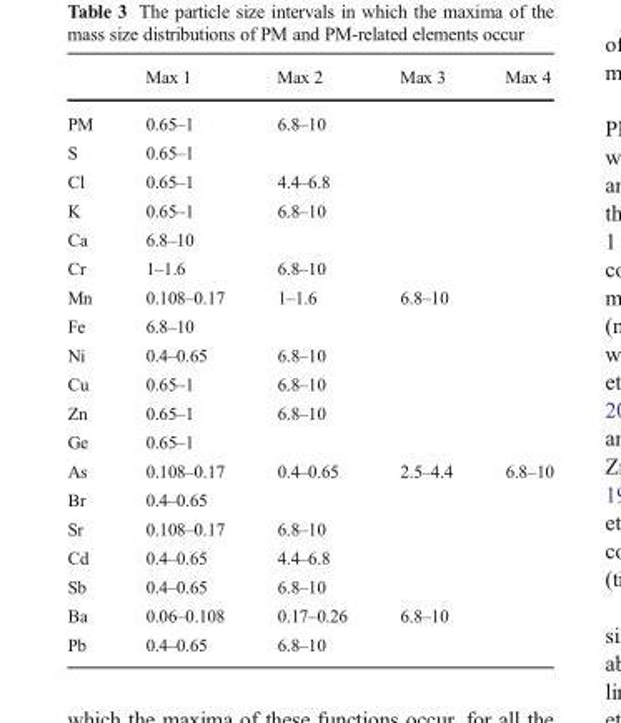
<table><thead><tr><td></td><td>Max 1</td><td>Max 2</td><td>Max 3</td><td>Max 4</td></tr></thead><tbody><tr><td>PM</td><td>0.65–1</td><td>6.8–10</td><td></td><td></td></tr><tr><td>S</td><td>0.65–1</td><td></td><td></td><td></td></tr><tr><td>Cl</td><td>0.65–1</td><td>4.4–6.8</td><td></td><td></td></tr><tr><td>K</td><td>0.65–1</td><td>6.8–10</td><td></td><td></td></tr><tr><td>Ca</td><td>6.8–10</td><td></td><td></td><td></td></tr><tr><td>Cr</td><td>1–1.6</td><td>6.8–10</td><td></td><td></td></tr><tr><td>Mn</td><td>0.108–0.17</td><td>1–1.6</td><td>6.8–10</td><td></td></tr><tr><td>Fe</td><td>6.8–10</td><td></td><td></td><td></td></tr><tr><td>Ni</td><td>0.4–0.65</td><td>6.8–10</td><td></td><td></td></tr><tr><td>Cu</td><td>0.65–1</td><td>6.8–10</td><td></td><td></td></tr><tr><td>Zn</td><td>0.65–1</td><td>6.8–10</td><td></td><td></td></tr><tr><td>Ge</td><td>0.65–1</td><td></td><td></td><td></td></tr><tr><td>As</td><td>0.108–0.17</td><td>0.4–0.65</td><td>2.5–4.4</td><td>6.8–10</td></tr><tr><td>Br</td><td>0.4–0.65</td><td></td><td></td><td></td></tr><tr><td>Sr</td><td>0.108–0.17</td><td>6.8–10</td><td></td><td></td></tr><tr><td>Cd</td><td>0.4–0.65</td><td>4.4–6.8</td><td></td><td></td></tr><tr><td>Sb</td><td>0.4–0.65</td><td>6.8–10</td><td></td><td></td></tr><tr><td>Ba</td><td>0.06–0.108</td><td>0.17–0.26</td><td>6.8–10</td><td></td></tr><tr><td>Pb</td><td>0.4–0.65</td><td>6.8–10</td><td></td><td></td></tr></tbody></table>